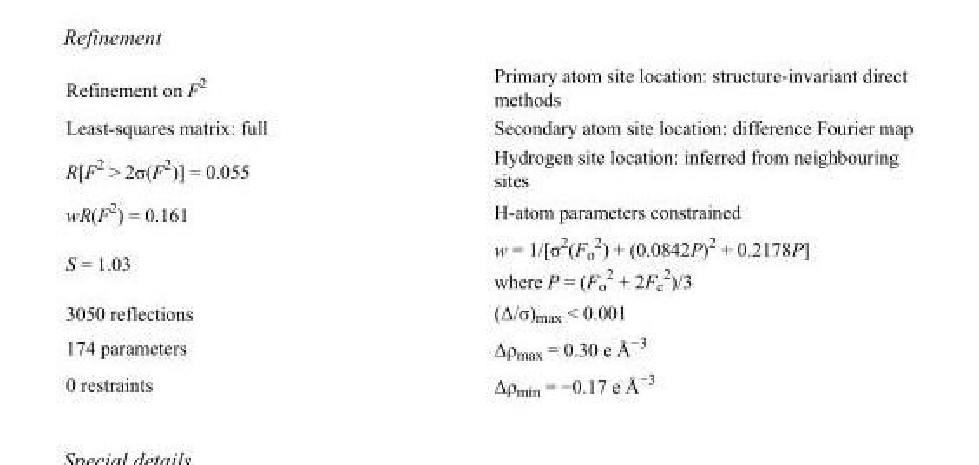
<table><tbody><tr><td>Refinement on F<sup>2</sup></td><td>Primary atom site location: structure-invariant direct methods</td></tr><tr><td>Least-squares matrix: full</td><td>Secondary atom site location: difference Fourier map</td></tr><tr><td>R[F<sup>2</sup> &gt; 2σ(F<sup>2</sup>)] = 0.055</td><td>Hydrogen site location: inferred from neighbouring sites</td></tr><tr><td>wR(F<sup>2</sup>) = 0.161</td><td>H-atom parameters constrained</td></tr><tr><td>S = 1.03</td><td>w = 1/[σ<sup>2</sup>(F<sub>o</sub> <sup>2</sup>) + (0.0842P)<sup>2</sup> + 0.2178P] where P = (F<sub>o</sub> <sup>2</sup> + 2F<sub>c</sub> <sup>2</sup>)/3</td></tr><tr><td>3050 reflections</td><td>(Δ/σ)<sub>max</sub> &lt; 0.001</td></tr><tr><td>174 parameters</td><td>Δρ<sub>max</sub> = 0.30 e Å<sup>−3</sup></td></tr><tr><td>0 restraints</td><td>Δρ<sub>min</sub> = −0.17 e Å<sup>−3</sup></td></tr></tbody></table>